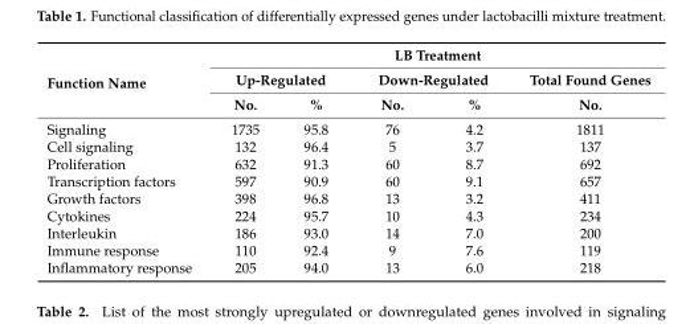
<table><thead><tr><td rowspan="3">Function Name</td><td colspan="5">LB Treatment</td></tr><tr><td colspan="2">Up-Regulated</td><td colspan="2">Down-Regulated</td><td rowspan="2">Total Found Genes No.</td></tr><tr><td>No.</td><td>%</td><td>No.</td><td>%</td></tr></thead><tbody><tr><td>Signaling</td><td>1735</td><td>95.8</td><td>76</td><td>4.2</td><td>1811</td></tr><tr><td>Cell signaling</td><td>132</td><td>96.4</td><td>5</td><td>3.7</td><td>137</td></tr><tr><td>Proliferation</td><td>632</td><td>91.3</td><td>60</td><td>8.7</td><td>692</td></tr><tr><td>Transcription factors</td><td>597</td><td>90.9</td><td>60</td><td>9.1</td><td>657</td></tr><tr><td>Growth factors</td><td>398</td><td>96.8</td><td>13</td><td>3.2</td><td>411</td></tr><tr><td>Cytokines</td><td>224</td><td>95.7</td><td>10</td><td>4.3</td><td>234</td></tr><tr><td>Interleukin</td><td>186</td><td>93.0</td><td>14</td><td>7.0</td><td>200</td></tr><tr><td>Immune response</td><td>110</td><td>92.4</td><td>9</td><td>7.6</td><td>119</td></tr><tr><td>Inflammatory response</td><td>205</td><td>94.0</td><td>13</td><td>6.0</td><td>218</td></tr></tbody></table>